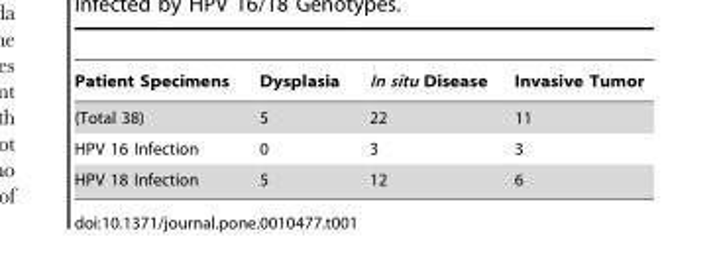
<table><thead><tr><td>Patient Specimens</td><td>Dysplasia</td><td>In situ Disease</td><td>Invasive Tumor</td></tr></thead><tbody><tr><td>(Total 38)</td><td>5</td><td>22</td><td>11</td></tr><tr><td>HPV 16 Infection</td><td>0</td><td>3</td><td>3</td></tr><tr><td>HPV 18 Infection</td><td>5</td><td>12</td><td>6</td></tr></tbody></table>